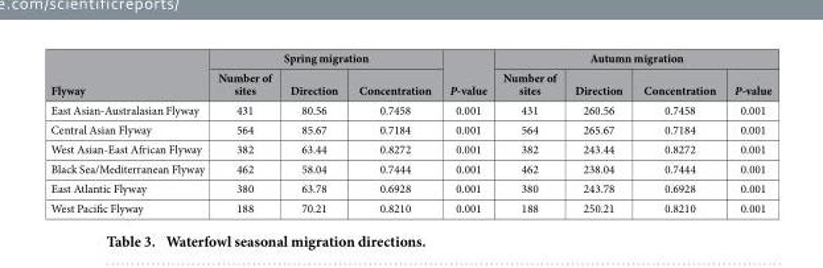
<table><thead><tr><td rowspan="2">Flyway</td><td colspan="3">Spring migration</td><td rowspan="2">P-value</td><td colspan="4">Autumn migration</td></tr><tr><td>Number of sites</td><td>Direction</td><td>Concentration</td><td>Number of sites</td><td>Direction</td><td>Concentration</td><td>P-value</td></tr></thead><tbody><tr><td>East Asian-Australasian Flyway</td><td>431</td><td>80.56</td><td>0.7458</td><td>0.001</td><td>431</td><td>260.56</td><td>0.7458</td><td>0.001</td></tr><tr><td>Central Asian Flyway</td><td>564</td><td>85.67</td><td>0.7184</td><td>0.001</td><td>564</td><td>265.67</td><td>0.7184</td><td>0.001</td></tr><tr><td>West Asian-East African Flyway</td><td>382</td><td>63.44</td><td>0.8272</td><td>0.001</td><td>382</td><td>243.44</td><td>0.8272</td><td>0.001</td></tr><tr><td>Black Sea/Mediterranean Flyway</td><td>462</td><td>58.04</td><td>0.7444</td><td>0.001</td><td>462</td><td>238.04</td><td>0.7444</td><td>0.001</td></tr><tr><td>East Atlantic Flyway</td><td>380</td><td>63.78</td><td>0.6928</td><td>0.001</td><td>380</td><td>243.78</td><td>0.6928</td><td>0.001</td></tr><tr><td>West Pacific Flyway</td><td>188</td><td>70.21</td><td>0.8210</td><td>0.001</td><td>188</td><td>250.21</td><td>0.8210</td><td>0.001</td></tr></tbody></table>